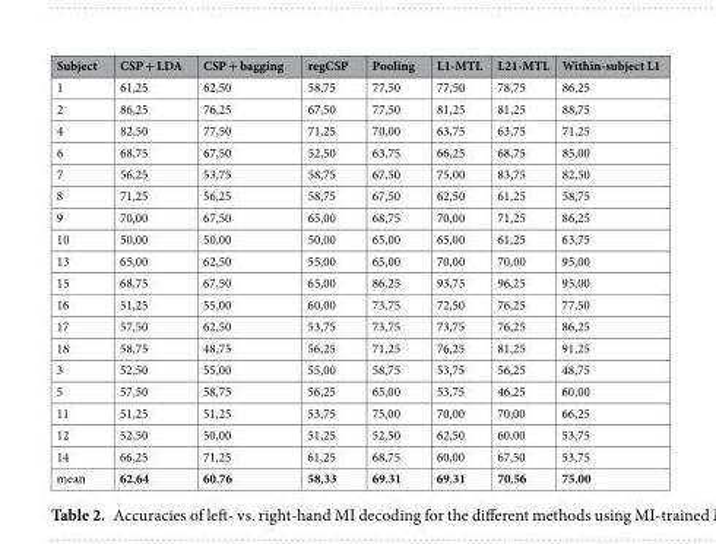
<table><thead><tr><td>Subject</td><td>CSP + LDA</td><td>CSP + bagging</td><td>regCSP</td><td>Pooling</td><td>L1-MTL</td><td>L21-MTL</td><td>Within-subject L1</td></tr></thead><tbody><tr><td>1</td><td>61,25</td><td>62,50</td><td>58,75</td><td>77,50</td><td>77,50</td><td>78,75</td><td>86,25</td></tr><tr><td>2</td><td>86,25</td><td>76,25</td><td>67,50</td><td>77,50</td><td>81,25</td><td>81,25</td><td>88,75</td></tr><tr><td>4</td><td>82,50</td><td>77,50</td><td>71,25</td><td>70,00</td><td>63,75</td><td>63,75</td><td>71,25</td></tr><tr><td>6</td><td>68,75</td><td>67,50</td><td>52,50</td><td>63,75</td><td>66,25</td><td>68,75</td><td>85,00</td></tr><tr><td>7</td><td>56,25</td><td>53,75</td><td>58,75</td><td>67,50</td><td>75,00</td><td>83,75</td><td>82,50</td></tr><tr><td>8</td><td>71,25</td><td>56,25</td><td>58,75</td><td>67,50</td><td>62,50</td><td>61,25</td><td>58,75</td></tr><tr><td>9</td><td>70,00</td><td>67,50</td><td>65,00</td><td>68,75</td><td>70,00</td><td>71,25</td><td>86,25</td></tr><tr><td>10</td><td>50,00</td><td>50,00</td><td>50,00</td><td>65,00</td><td>65,00</td><td>61,25</td><td>63,75</td></tr><tr><td>13</td><td>65,00</td><td>62,50</td><td>55,00</td><td>65,00</td><td>70,00</td><td>70,00</td><td>95,00</td></tr><tr><td>15</td><td>68,75</td><td>67,50</td><td>65,00</td><td>86,25</td><td>93,75</td><td>96,25</td><td>95,00</td></tr><tr><td>16</td><td>51,25</td><td>55,00</td><td>60,00</td><td>73,75</td><td>72,50</td><td>76,25</td><td>77,50</td></tr><tr><td>17</td><td>57,50</td><td>62,50</td><td>53,75</td><td>73,75</td><td>73,75</td><td>76,25</td><td>86,25</td></tr><tr><td>18</td><td>58,75</td><td>48,75</td><td>56,25</td><td>71,25</td><td>76,25</td><td>81,25</td><td>91,25</td></tr><tr><td>3</td><td>52,50</td><td>55,00</td><td>55,00</td><td>58,75</td><td>53,75</td><td>56,25</td><td>48,75</td></tr><tr><td>5</td><td>57,50</td><td>58,75</td><td>56,25</td><td>65,00</td><td>53,75</td><td>46,25</td><td>60,00</td></tr><tr><td>11</td><td>51,25</td><td>51,25</td><td>53,75</td><td>75,00</td><td>70,00</td><td>70,00</td><td>66,25</td></tr><tr><td>12</td><td>52,50</td><td>50,00</td><td>51,25</td><td>52,50</td><td>62,50</td><td>60,00</td><td>53,75</td></tr><tr><td>14</td><td>66,25</td><td>71,25</td><td>61,25</td><td>68,75</td><td>60,00</td><td>67,50</td><td>53,75</td></tr><tr><td>mean</td><td>62,64</td><td>60,76</td><td>58,33</td><td>69,31</td><td>69,31</td><td>70,56</td><td>75,00</td></tr></tbody></table>